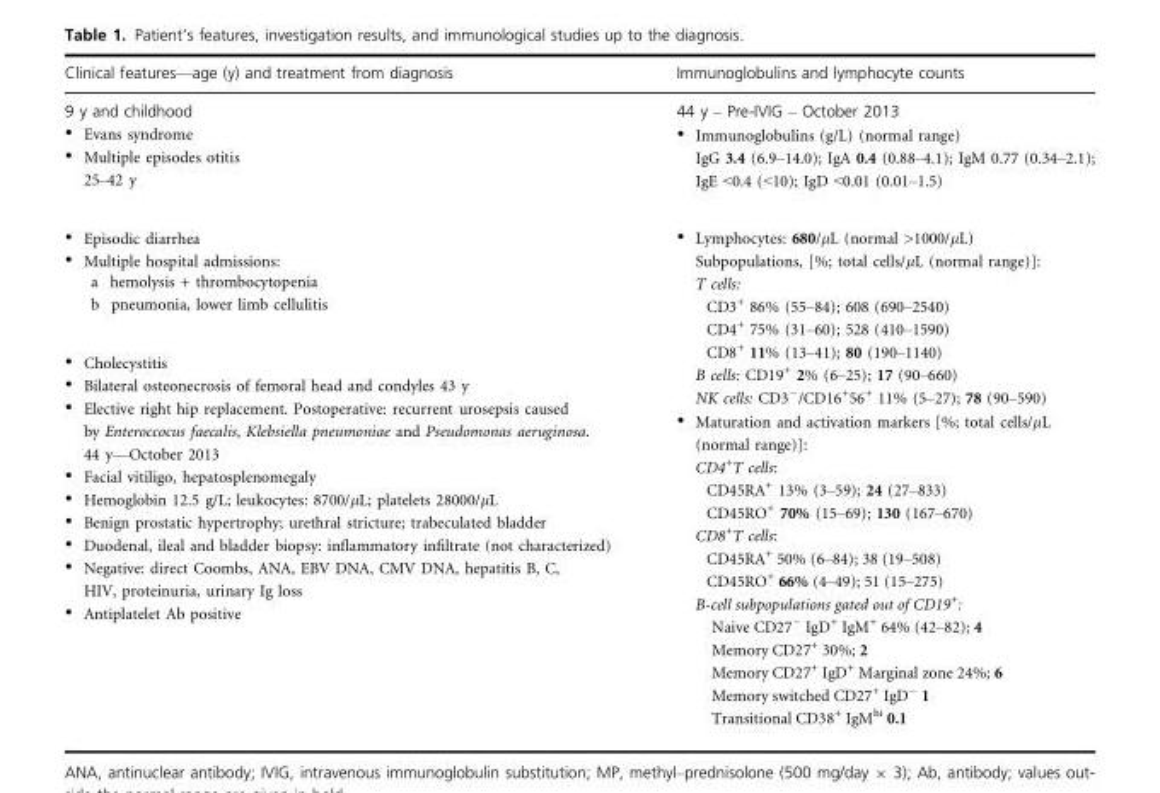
<table><thead><tr><td>Clinical features—age (y) and treatment from diagnosis</td><td>Immunoglobulins and lymphocyte counts</td></tr></thead><tbody><tr><td>9 y and childhood • Evans syndrome • Multiple episodes otitis 25–42 y • Episodic diarrhea • Multiple hospital admissions: a hemolysis + thrombocytopenia b pneumonia, lower limb cellulitis • Cholecystitis • Bilateral osteonecrosis of femoral head and condyles 43 y • Elective right hip replacement. Postoperative: recurrent urosepsis caused by Enteroccocus faecalis, Klebsiella pneumoniae and Pseudomonas aeruginosa. 44 y—October 2013 • Facial vitiligo, hepatosplenomegaly • Hemoglobin 12.5 g/L; leukocytes: 8700/lL; platelets 28000/lL • Benign prostatic hypertrophy; urethral stricture; trabeculated bladder • Duodenal, ileal and bladder biopsy: inflammatory infiltrate (not characterized) • Negative: direct Coombs, ANA, EBV DNA, CMV DNA, hepatitis B, C, HIV, proteinuria, urinary Ig loss • Antiplatelet Ab positive</td><td>44 y – Pre-IVIG – October 2013 • Immunoglobulins (g/L) (normal range) IgG 3.4 (6.9–14.0); IgA 0.4 (0.88–4.1); IgM 0.77 (0.34–2.1); IgE &lt;0.4 (&lt;10); IgD &lt;0.01 (0.01–1.5) • Lymphocytes: 680/lL (normal &gt;1000/lL) Subpopulations, [%; total cells/lL (normal range)]: T cells: CD3+ 86% (55–84); 608 (690–2540) CD4+ 75% (31–60); 528 (410–1590) CD8+ 11% (13–41); 80 (190–1140) B cells: CD19+ 2% (6–25); 17 (90–660) NK cells: CD3�/CD16+56+ 11% (5–27); 78 (90–590) • Maturation and activation markers [%; total cells/lL (normal range)]: CD4+T cells: CD45RA+ 13% (3–59); 24 (27–833) CD45RO+ 70% (15–69); 130 (167–670) CD8+T cells: CD45RA+ 50% (6–84); 38 (19–508) CD45RO+ 66% (4–49); 51 (15–275) B-cell subpopulations gated out of CD19+: Naive CD27� IgD+ IgM+ 64% (42–82); 4 Memory CD27+ 30%; 2 Memory CD27+ IgD+ Marginal zone 24%; 6 Memory switched CD27+ IgD� 1 Transitional CD38+ IgMhi 0.1</td></tr></tbody></table>